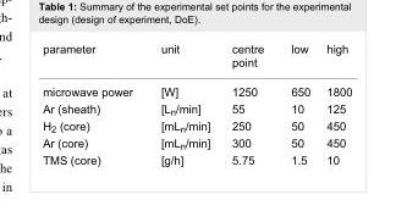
<table><tbody><tr><td>parameter</td><td>unit</td><td>centre point</td><td>low</td><td>high</td></tr><tr><td>microwave power</td><td>[W]</td><td>1250</td><td>650</td><td>1800</td></tr><tr><td>Ar (sheath)</td><td>[L<sub>n</sub>/min]</td><td>55</td><td>10</td><td>125</td></tr><tr><td>H<sub>2</sub> (core)</td><td>[mL<sub>n</sub>/min]</td><td>250</td><td>50</td><td>450</td></tr><tr><td>Ar (core)</td><td>[mL<sub>n</sub>/min]</td><td>300</td><td>50</td><td>450</td></tr><tr><td>TMS (core)</td><td>[g/h]</td><td>5.75</td><td>1.5</td><td>10</td></tr></tbody></table>